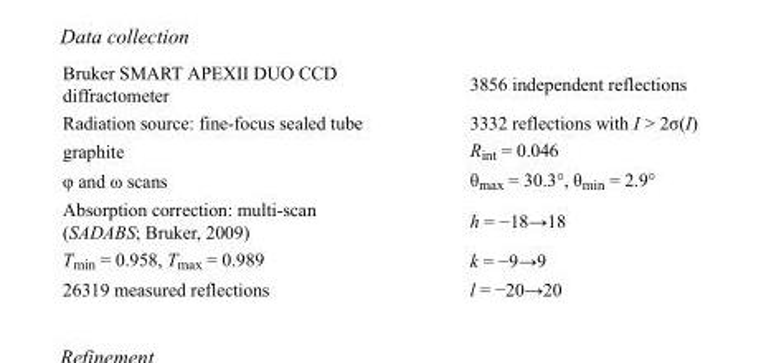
<table><tbody><tr><td>Bruker SMART APEXII DUO CCD diffractometer</td><td>3856 independent reflections</td></tr><tr><td>Radiation source: fine-focus sealed tube</td><td>3332 reflections with I &gt; 2σ(I)</td></tr><tr><td>graphite</td><td>R<sub>int</sub> = 0.046</td></tr><tr><td>φ and ω scans</td><td>θ<sub>max</sub> = 30.3°, θ<sub>min</sub> = 2.9°</td></tr><tr><td>Absorption correction: multi-scan (SADABS; Bruker, 2009)</td><td>h = −18→18</td></tr><tr><td>T<sub>min</sub> = 0.958, T<sub>max</sub> = 0.989</td><td>k = −9→9</td></tr><tr><td>26319 measured reflections</td><td>l = −20→20</td></tr></tbody></table>